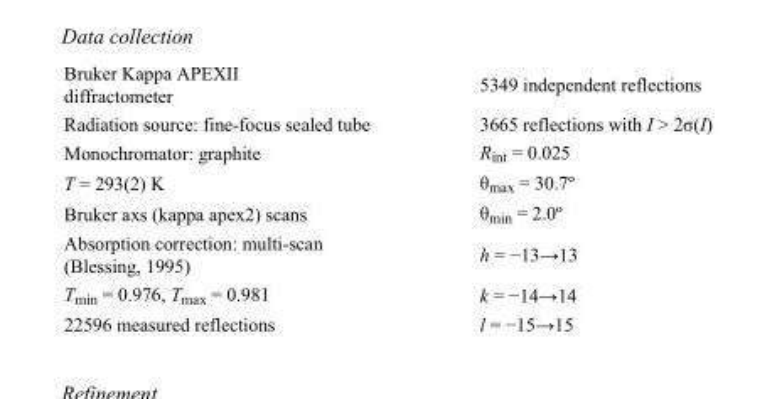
<table><tbody><tr><td>Bruker Kappa APEXII diffractometer</td><td>5349 independent reflections</td></tr><tr><td>Radiation source: fine-focus sealed tube</td><td>3665 reflections with I &gt; 2σ(I)</td></tr><tr><td>Monochromator: graphite</td><td>R<sub>int</sub> = 0.025</td></tr><tr><td>T = 293(2) K</td><td>θ<sub>max</sub> = 30.7º</td></tr><tr><td>Bruker axs (kappa apex2) scans</td><td>θ<sub>min</sub> = 2.0º</td></tr><tr><td>Absorption correction: multi-scan (Blessing, 1995)</td><td>h = −13→13</td></tr><tr><td>T<sub>min</sub> = 0.976, T<sub>max</sub> = 0.981</td><td>k = −14→14</td></tr><tr><td>22596 measured reflections</td><td>l = −15→15</td></tr></tbody></table>